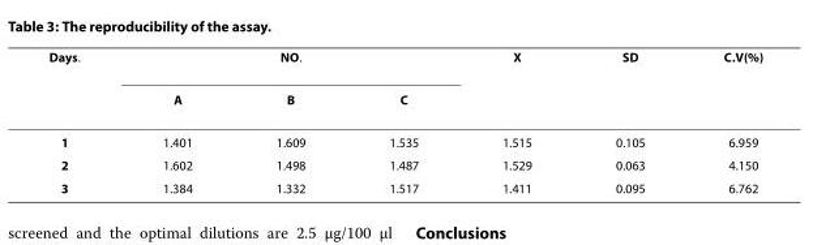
<table><thead><tr><td rowspan="2">Days.</td><td colspan="3">NO.</td><td rowspan="2">X</td><td rowspan="2">SD</td><td rowspan="2">C.V(%)</td></tr><tr><td>A</td><td>B</td><td>C</td></tr></thead><tbody><tr><td>1</td><td>1.401</td><td>1.609</td><td>1.535</td><td>1.515</td><td>0.105</td><td>6.959</td></tr><tr><td>2</td><td>1.602</td><td>1.498</td><td>1.487</td><td>1.529</td><td>0.063</td><td>4.150</td></tr><tr><td>3</td><td>1.384</td><td>1.332</td><td>1.517</td><td>1.411</td><td>0.095</td><td>6.762</td></tr></tbody></table>